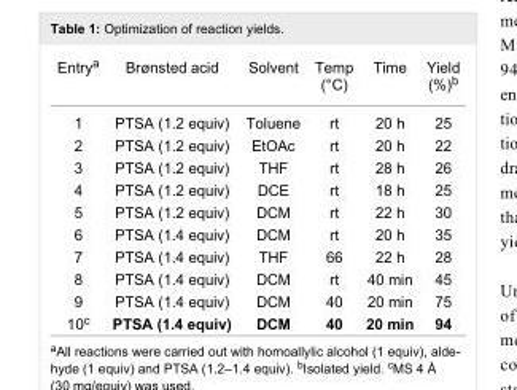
<table><tbody><tr><td>Entry<sup>a</sup></td><td>Brønsted acid</td><td>Solvent</td><td>Temp (°C)</td><td>Time</td><td>Yield (%)<sup>b</sup></td></tr><tr><td>1</td><td>PTSA (1.2 equiv)</td><td>Toluene</td><td>rt</td><td>20 h</td><td>25</td></tr><tr><td>2</td><td>PTSA (1.2 equiv)</td><td>EtOAc</td><td>rt</td><td>20 h</td><td>22</td></tr><tr><td>3</td><td>PTSA (1.2 equiv)</td><td>THF</td><td>rt</td><td>28 h</td><td>26</td></tr><tr><td>4</td><td>PTSA (1.2 equiv)</td><td>DCE</td><td>rt</td><td>18 h</td><td>25</td></tr><tr><td>5</td><td>PTSA (1.2 equiv)</td><td>DCM</td><td>rt</td><td>22 h</td><td>30</td></tr><tr><td>6</td><td>PTSA (1.4 equiv)</td><td>DCM</td><td>rt</td><td>20 h</td><td>35</td></tr><tr><td>7</td><td>PTSA (1.4 equiv)</td><td>THF</td><td>66</td><td>22 h</td><td>28</td></tr><tr><td>8</td><td>PTSA (1.4 equiv)</td><td>DCM</td><td>rt</td><td>40 min</td><td>45</td></tr><tr><td>9</td><td>PTSA (1.4 equiv)</td><td>DCM</td><td>40</td><td>20 min</td><td>75</td></tr><tr><td>10<sup>c</sup></td><td>PTSA (1.4 equiv)</td><td>DCM</td><td>40</td><td>20 min</td><td>94</td></tr></tbody></table>